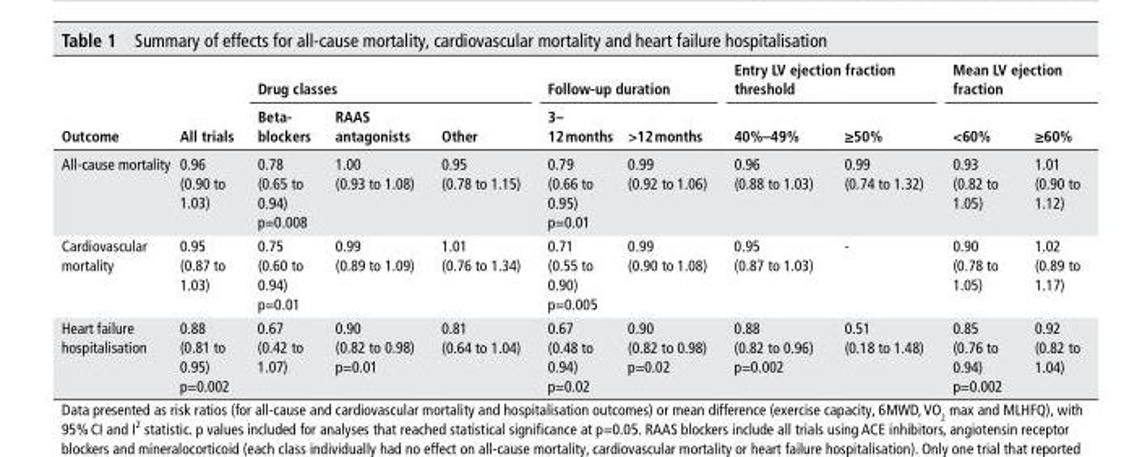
<table><thead><tr><td rowspan="2">outcome</td><td rowspan="2">All trials</td><td colspan="3">drug classes</td><td colspan="2">Follow-up duration</td><td colspan="2">entry lV ejection fraction threshold</td><td colspan="2">Mean lV ejection fraction</td></tr><tr><td>beta- blockers</td><td>rAAs antagonists</td><td>other</td><td>3– 12 months</td><td>&gt;12 months</td><td>40%–49%</td><td>≥50%</td><td>&lt;60%</td><td>≥60%</td></tr></thead><tbody><tr><td>All-cause mortality</td><td>0.96 (0.90 to 1.03)</td><td>0.78 (0.65 to 0.94) p=0.008</td><td>1.00 (0.93 to 1.08)</td><td>0.95 (0.78 to 1.15)</td><td>0.79 (0.66 to 0.95) p=0.01</td><td>0.99 (0.92 to 1.06)</td><td>0.96 (0.88 to 1.03)</td><td>0.99 (0.74 to 1.32)</td><td>0.93 (0.82 to 1.05)</td><td>1.01 (0.90 to 1.12)</td></tr><tr><td>Cardiovascular mortality</td><td>0.95 (0.87 to 1.03)</td><td>0.75 (0.60 to 0.94) p=0.01</td><td>0.99 (0.89 to 1.09)</td><td>1.01 (0.76 to 1.34)</td><td>0.71 (0.55 to 0.90) p=0.005</td><td>0.99 (0.90 to 1.08)</td><td>0.95 (0.87 to 1.03)</td><td>-</td><td>0.90 (0.78 to 1.05)</td><td>1.02 (0.89 to 1.17)</td></tr><tr><td>Heart failure hospitalisation</td><td>0.88 (0.81 to 0.95) p=0.002</td><td>0.67 (0.42 to 1.07)</td><td>0.90 (0.82 to 0.98) p=0.01</td><td>0.81 (0.64 to 1.04)</td><td>0.67 (0.48 to 0.94) p=0.02</td><td>0.90 (0.82 to 0.98) p=0.02</td><td>0.88 (0.82 to 0.96) p=0.002</td><td>0.51 (0.18 to 1.48)</td><td>0.85 (0.76 to 0.94) p=0.002</td><td>0.92 (0.82 to 1.04)</td></tr></tbody></table>